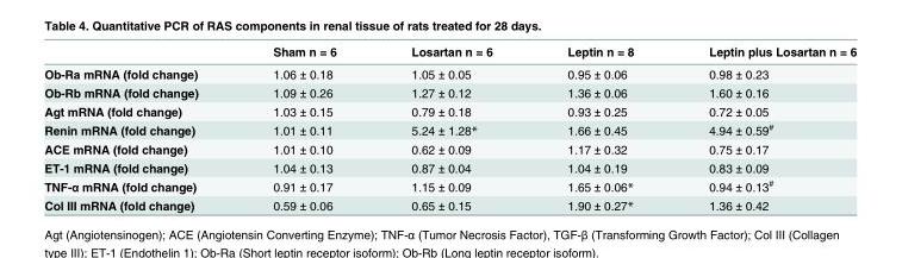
<table><thead><tr><td></td><td>Sham n = 6</td><td>Losartan n = 6</td><td>Leptin n = 8</td><td>Leptin plus Losartan n = 6</td></tr></thead><tbody><tr><td>Ob-Ra mRNA (fold change)</td><td>1.06 ± 0.18</td><td>1.05 ± 0.05</td><td>0.95 ± 0.06</td><td>0.98 ± 0.23</td></tr><tr><td>Ob-Rb mRNA (fold change)</td><td>1.09 ± 0.26</td><td>1.27 ± 0.12</td><td>1.36 ± 0.06</td><td>1.60 ± 0.16</td></tr><tr><td>Agt mRNA (fold change)</td><td>1.03 ± 0.15</td><td>0.79 ± 0.18</td><td>0.93 ± 0.25</td><td>0.72 ± 0.05</td></tr><tr><td>Renin mRNA (fold change)</td><td>1.01 ± 0.11</td><td>5.24 ± 1.28*</td><td>1.66 ± 0.45</td><td>4.94 ± 0.59<sup>#</sup></td></tr><tr><td>ACE mRNA (fold change)</td><td>1.01 ± 0.10</td><td>0.62 ± 0.09</td><td>1.17 ± 0.32</td><td>0.75 ± 0.17</td></tr><tr><td>ET-1 mRNA (fold change)</td><td>1.04 ± 0.13</td><td>0.87 ± 0.04</td><td>1.04 ± 0.19</td><td>0.83 ± 0.09</td></tr><tr><td>TNF-α mRNA (fold change)</td><td>0.91 ± 0.17</td><td>1.15 ± 0.09</td><td>1.65 ± 0.06*</td><td>0.94 ± 0.13<sup>#</sup></td></tr><tr><td>Col III mRNA (fold change)</td><td>0.59 ± 0.06</td><td>0.65 ± 0.15</td><td>1.90 ± 0.27*</td><td>1.36 ± 0.42</td></tr></tbody></table>